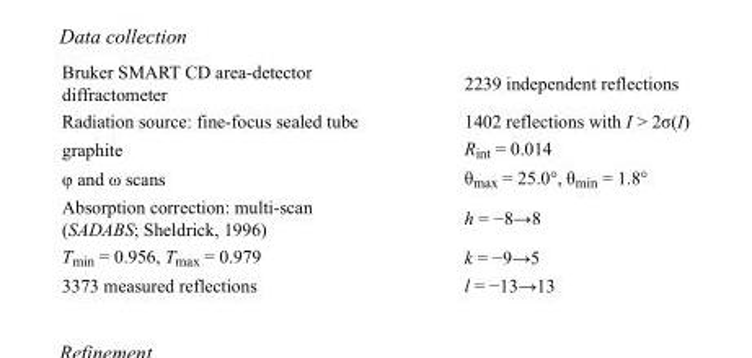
<table><tbody><tr><td>Bruker SMART CD area-detector diffractometer</td><td>2239 independent reflections</td></tr><tr><td>Radiation source: fine-focus sealed tube</td><td>1402 reflections with I &gt; 2σ(I)</td></tr><tr><td>graphite</td><td>R<sub>int</sub> = 0.014</td></tr><tr><td>φ and ω scans</td><td>θ<sub>max</sub> = 25.0°, θ<sub>min</sub> = 1.8°</td></tr><tr><td>Absorption correction: multi-scan (SADABS; Sheldrick, 1996)</td><td>h = −8→8</td></tr><tr><td>T<sub>min</sub> = 0.956, T<sub>max</sub> = 0.979</td><td>k = −9→5</td></tr><tr><td>3373 measured reflections</td><td>l = −13→13</td></tr></tbody></table>